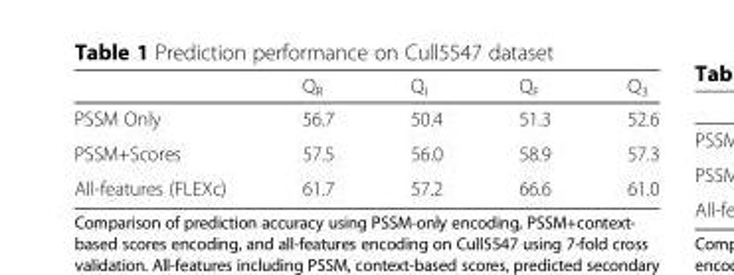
<table><thead><tr><td></td><td>Q<sub>R</sub></td><td>Q<sub>I</sub></td><td>Q<sub>F</sub></td><td>Q<sub>3</sub></td></tr></thead><tbody><tr><td>PSSM Only</td><td>56.7</td><td>50.4</td><td>51.3</td><td>52.6</td></tr><tr><td>PSSM+Scores</td><td>57.5</td><td>56.0</td><td>58.9</td><td>57.3</td></tr><tr><td>All-features (FLEXc)</td><td>61.7</td><td>57.2</td><td>66.6</td><td>61.0</td></tr></tbody></table>